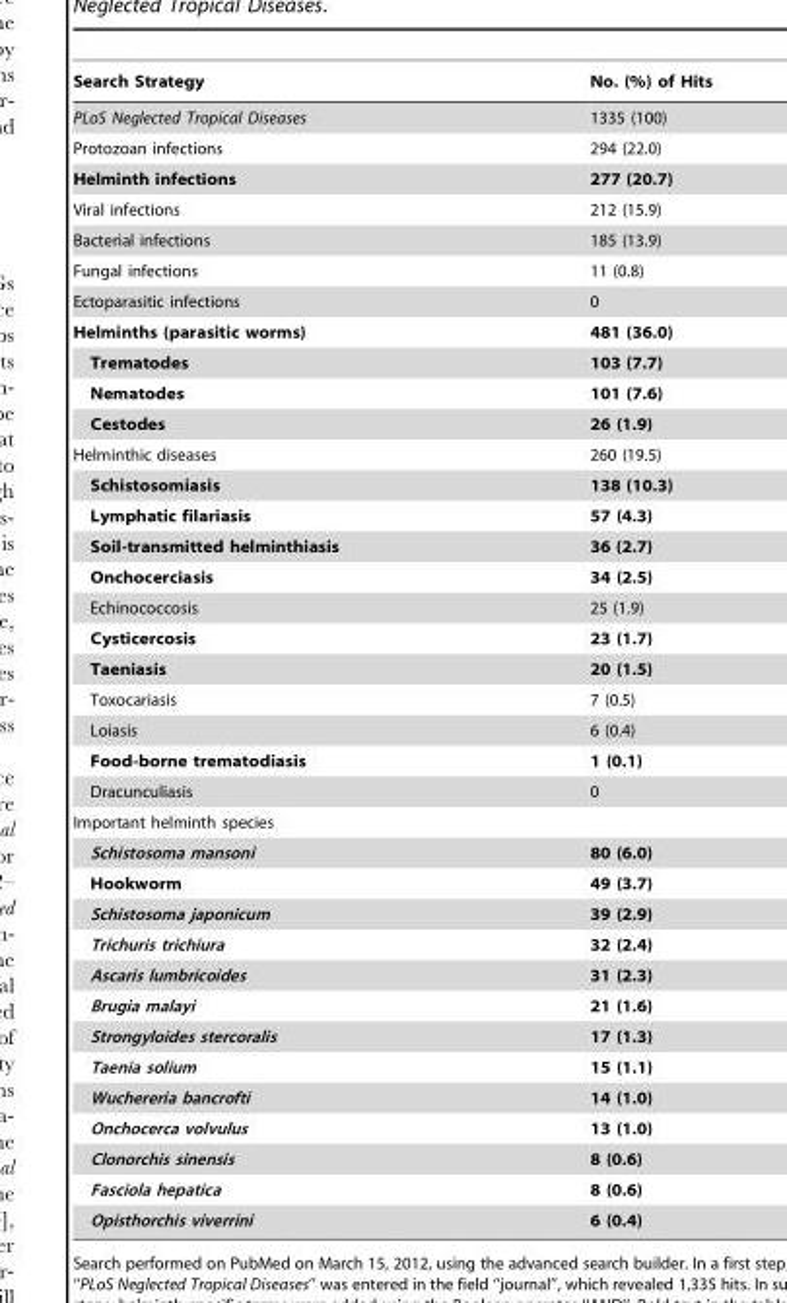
<table><thead><tr><td>Search Strategy</td><td>No. (%) of Hits</td></tr></thead><tbody><tr><td>PLoS Neglected Tropical Diseases</td><td>1335 (100)</td></tr><tr><td>Protozoan infections</td><td>294 (22.0)</td></tr><tr><td>Helminth infections</td><td>277 (20.7)</td></tr><tr><td>Viral infections</td><td>212 (15.9)</td></tr><tr><td>Bacterial infections</td><td>185 (13.9)</td></tr><tr><td>Fungal infections</td><td>11 (0.8)</td></tr><tr><td>Ectoparasitic infections</td><td>0</td></tr><tr><td>Helminths (parasitic worms)</td><td>481 (36.0)</td></tr><tr><td>Trematodes</td><td>103 (7.7)</td></tr><tr><td>Nematodes</td><td>101 (7.6)</td></tr><tr><td>Cestodes</td><td>26 (1.9)</td></tr><tr><td>Helminthic diseases</td><td>260 (19.5)</td></tr><tr><td>Schistosomiasis</td><td>138 (10.3)</td></tr><tr><td>Lymphatic filariasis</td><td>57 (4.3)</td></tr><tr><td>Soil-transmitted helminthiasis</td><td>36 (2.7)</td></tr><tr><td>Onchocerciasis</td><td>34 (2.5)</td></tr><tr><td>Echinococcosis</td><td>25 (1.9)</td></tr><tr><td>Cysticercosis</td><td>23 (1.7)</td></tr><tr><td>Taeniasis</td><td>20 (1.5)</td></tr><tr><td>Toxocariasis</td><td>7 (0.5)</td></tr><tr><td>Loiasis</td><td>6 (0.4)</td></tr><tr><td>Food-borne trematodiasis</td><td>1 (0.1)</td></tr><tr><td>Dracunculiasis</td><td>0</td></tr><tr><td colspan="2">Important helminth species</td></tr><tr><td>Schistosoma mansoni</td><td>80 (6.0)</td></tr><tr><td>Hookworm</td><td>49 (3.7)</td></tr><tr><td>Schistosoma japonicum</td><td>39 (2.9)</td></tr><tr><td>Trichuris trichiura</td><td>32 (2.4)</td></tr><tr><td>Ascaris lumbricoides</td><td>31 (2.3)</td></tr><tr><td>Brugia malayi</td><td>21 (1.6)</td></tr><tr><td>Strongyloides stercoralis</td><td>17 (1.3)</td></tr><tr><td>Taenia solium</td><td>15 (1.1)</td></tr><tr><td>Wuchereria bancrofti</td><td>14 (1.0)</td></tr><tr><td>Onchocerca volvulus</td><td>13 (1.0)</td></tr><tr><td>Clonorchis sinensis</td><td>8 (0.6)</td></tr><tr><td>Fasciola hepatica</td><td>8 (0.6)</td></tr><tr><td>Opisthorchis viverrini</td><td>6 (0.4)</td></tr></tbody></table>